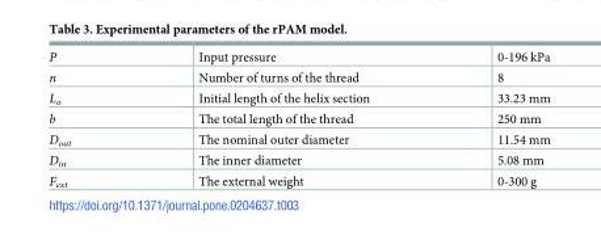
<table><tbody><tr><td>P</td><td>Input pressure</td><td>0-196 kPa</td></tr><tr><td>n</td><td>Number of turns of the thread</td><td>8</td></tr><tr><td>L<sub>o</sub></td><td>Initial length of the helix section</td><td>33.23 mm</td></tr><tr><td>b</td><td>The total length of the thread</td><td>250 mm</td></tr><tr><td>D<sub>out</sub></td><td>The nominal outer diameter</td><td>11.54 mm</td></tr><tr><td>D<sub>in</sub></td><td>The inner diameter</td><td>5.08 mm</td></tr><tr><td>F<sub>ext</sub></td><td>The external weight</td><td>0-300 g</td></tr></tbody></table>